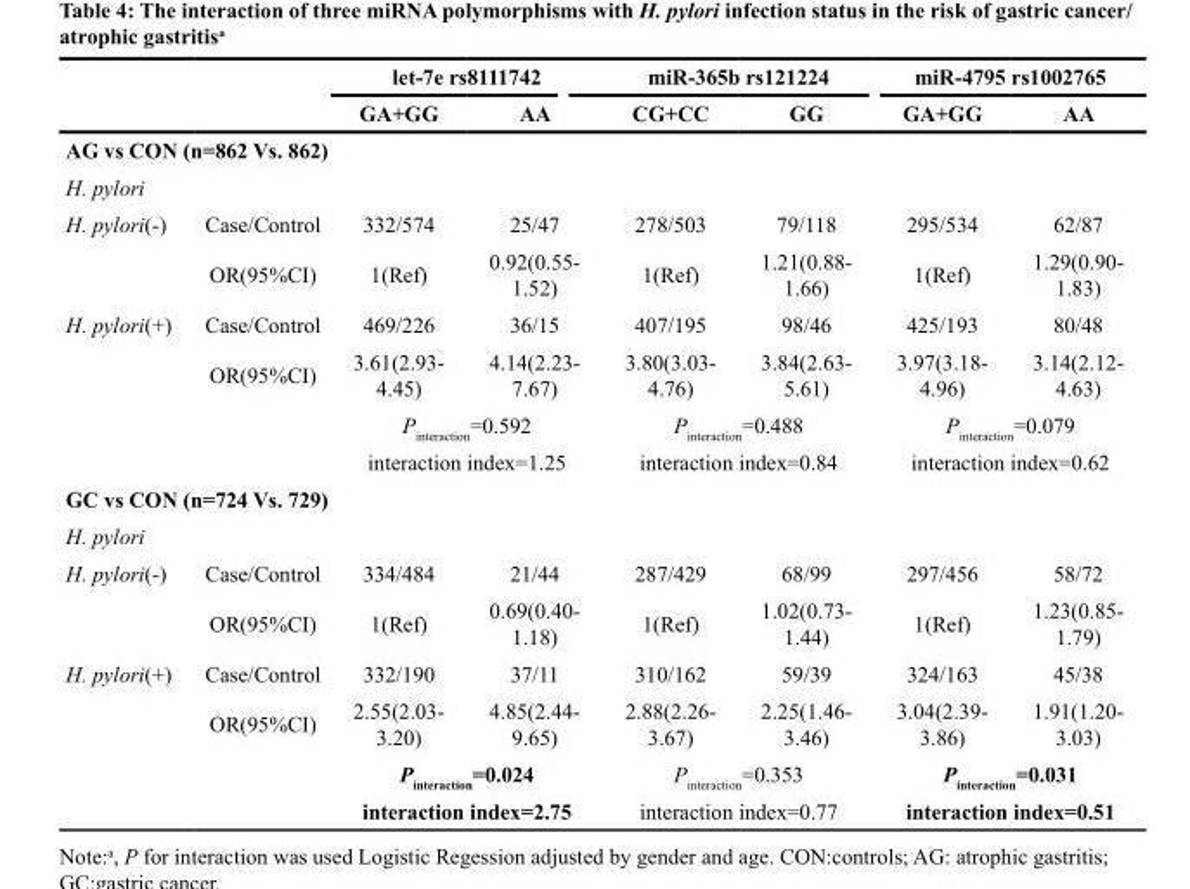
<table><thead><tr><td rowspan="2"></td><td rowspan="2"></td><td colspan="2">let-7e rs8111742</td><td colspan="2">miR-365b rs121224</td><td colspan="2">miR-4795 rs1002765</td></tr><tr><td>GA+GG</td><td>AA</td><td>CG+CC</td><td>GG</td><td>GA+GG</td><td>AA</td></tr></thead><tbody><tr><td colspan="8">AG vs CON (n=862 Vs. 862)</td></tr><tr><td colspan="8">H. pylori</td></tr><tr><td rowspan="2">H. pylori(-)</td><td>Case/Control</td><td>332/574</td><td>25/47</td><td>278/503</td><td>79/118</td><td>295/534</td><td>62/87</td></tr><tr><td>OR(95%CI)</td><td>1(Ref)</td><td>0.92(0.55- 1.52)</td><td>1(Ref)</td><td>1.21(0.88- 1.66)</td><td>1(Ref)</td><td>1.29(0.90- 1.83)</td></tr><tr><td rowspan="4">H. pylori(+)</td><td>Case/Control</td><td>469/226</td><td>36/15</td><td>407/195</td><td>98/46</td><td>425/193</td><td>80/48</td></tr><tr><td>OR(95%CI)</td><td>3.61(2.93- 4.45)</td><td>4.14(2.23- 7.67)</td><td>3.80(3.03- 4.76)</td><td>3.84(2.63- 5.61)</td><td>3.97(3.18- 4.96)</td><td>3.14(2.12- 4.63)</td></tr><tr><td></td><td colspan="2">P<sub>interaction</sub>=0.592</td><td colspan="2">P<sub>interaction</sub>=0.488</td><td colspan="2">P<sub>interaction</sub>=0.079</td></tr><tr><td></td><td colspan="2">interaction index=1.25</td><td colspan="2">interaction index=0.84</td><td colspan="2">interaction index=0.62</td></tr><tr><td colspan="8">GC vs CON (n=724 Vs. 729)</td></tr><tr><td colspan="8">H. pylori</td></tr><tr><td rowspan="2">H. pylori(-)</td><td>Case/Control</td><td>334/484</td><td>21/44</td><td>287/429</td><td>68/99</td><td>297/456</td><td>58/72</td></tr><tr><td>OR(95%CI)</td><td>1(Ref)</td><td>0.69(0.40- 1.18)</td><td>1(Ref)</td><td>1.02(0.73- 1.44)</td><td>1(Ref)</td><td>1.23(0.85- 1.79)</td></tr><tr><td rowspan="4">H. pylori(+)</td><td>Case/Control</td><td>332/190</td><td>37/11</td><td>310/162</td><td>59/39</td><td>324/163</td><td>45/38</td></tr><tr><td>OR(95%CI)</td><td>2.55(2.03- 3.20)</td><td>4.85(2.44- 9.65)</td><td>2.88(2.26- 3.67)</td><td>2.25(1.46- 3.46)</td><td>3.04(2.39- 3.86)</td><td>1.91(1.20- 3.03)</td></tr><tr><td></td><td colspan="2">P<sub>interaction</sub>=0.024</td><td colspan="2">P<sub>interaction</sub>=0.353</td><td colspan="2">P<sub>interaction</sub>=0.031</td></tr><tr><td></td><td colspan="2">interaction index=2.75</td><td colspan="2">interaction index=0.77</td><td colspan="2">interaction index=0.51</td></tr></tbody></table>